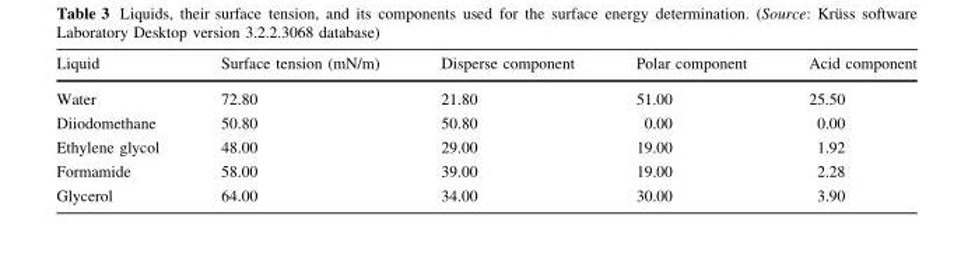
<table><thead><tr><td>Liquid</td><td>Surface tension (mN/m)</td><td>Disperse component</td><td>Polar component</td><td>Acid component</td></tr></thead><tbody><tr><td>Water</td><td>72.80</td><td>21.80</td><td>51.00</td><td>25.50</td></tr><tr><td>Diiodomethane</td><td>50.80</td><td>50.80</td><td>0.00</td><td>0.00</td></tr><tr><td>Ethylene glycol</td><td>48.00</td><td>29.00</td><td>19.00</td><td>1.92</td></tr><tr><td>Formamide</td><td>58.00</td><td>39.00</td><td>19.00</td><td>2.28</td></tr><tr><td>Glycerol</td><td>64.00</td><td>34.00</td><td>30.00</td><td>3.90</td></tr></tbody></table>